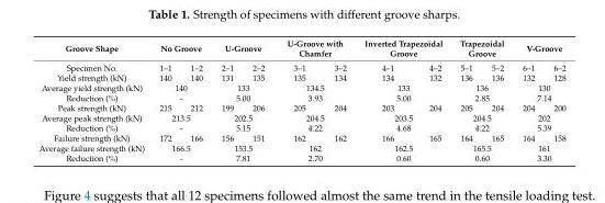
<table><thead><tr><td rowspan="2">Groove Shape Specimen No.</td><td colspan="2">No Groove</td><td colspan="2">U-Groove</td><td colspan="2">U-Groove with Chamfer</td><td colspan="2">Inverted Trapezoidal Groove</td><td colspan="2">Trapezoidal Groove</td><td colspan="2">V-Groove</td></tr><tr><td>1–1</td><td>1–2</td><td>2–1</td><td>2–2</td><td>3–1</td><td>3–2</td><td>4–1</td><td>4–2</td><td>5–1</td><td>5–2</td><td>6–1</td><td>6–2</td></tr></thead><tbody><tr><td>Yield strength (kN)</td><td>140</td><td>140</td><td>131</td><td>135</td><td>135</td><td>134</td><td>134</td><td>132</td><td>136</td><td>136</td><td>132</td><td>128</td></tr><tr><td>Average yield strength (kN)</td><td colspan="2">140</td><td colspan="2">133</td><td colspan="2">134.5</td><td colspan="2">133</td><td colspan="2">136</td><td colspan="2">130</td></tr><tr><td>Reduction (%)</td><td colspan="2">-</td><td colspan="2">5.00</td><td colspan="2">3.93</td><td colspan="2">5.00</td><td colspan="2">2.85</td><td colspan="2">7.14</td></tr><tr><td>Peak strength (kN)</td><td>215</td><td>212</td><td>199</td><td>206</td><td>205</td><td>204</td><td>203</td><td>204</td><td>205</td><td>204</td><td>204</td><td>200</td></tr><tr><td>Average peak strength (kN)</td><td colspan="2">213.5</td><td colspan="2">202.5</td><td colspan="2">204.5</td><td colspan="2">203.5</td><td colspan="2">204.5</td><td colspan="2">202</td></tr><tr><td>Reduction (%)</td><td colspan="2">-</td><td colspan="2">5.15</td><td colspan="2">4.22</td><td colspan="2">4.68</td><td colspan="2">4.22</td><td colspan="2">5.39</td></tr><tr><td>Failure strength (kN)</td><td>172</td><td>166</td><td>156</td><td>151</td><td>162</td><td>162</td><td>166</td><td>165</td><td>164</td><td>165</td><td>164</td><td>158</td></tr><tr><td>Average failure strength (kN)</td><td colspan="2">166.5</td><td colspan="2">153.5</td><td colspan="2">162</td><td colspan="2">162.5</td><td colspan="2">165.5</td><td colspan="2">161</td></tr><tr><td>Reduction (%)</td><td colspan="2">-</td><td colspan="2">7.81</td><td colspan="2">2.70</td><td colspan="2">0.60</td><td colspan="2">0.60</td><td colspan="2">3.30</td></tr></tbody></table>